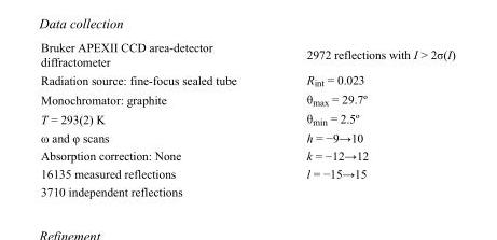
<table><tbody><tr><td>Bruker APEXII CCD area-detector diffractometer</td><td>2972 reflections with I &gt; 2σ(I)</td></tr><tr><td>Radiation source: fine-focus sealed tube</td><td>R<sub>int</sub> = 0.023</td></tr><tr><td>Monochromator: graphite</td><td>θ<sub>max</sub> = 29.7º</td></tr><tr><td>T = 293(2) K</td><td>θ<sub>min</sub> = 2.5º</td></tr><tr><td>ω and φ scans</td><td>h = −9→10</td></tr><tr><td>Absorption correction: None</td><td>k = −12→12</td></tr><tr><td>16135 measured reflections</td><td>l = −15→15</td></tr><tr><td>3710 independent reflections</td><td></td></tr></tbody></table>